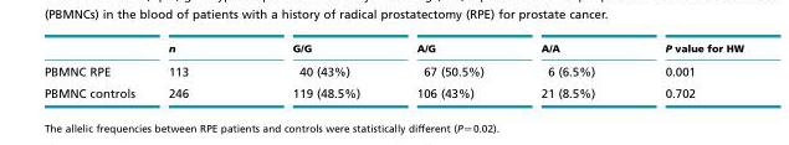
<table><thead><tr><td></td><td>n</td><td>G/G</td><td>A/G</td><td>A/A</td><td>P value for HW</td></tr></thead><tbody><tr><td>PBMNC RPE</td><td>113</td><td>40 (43%)</td><td>67 (50.5%)</td><td>6 (6.5%)</td><td>0.001</td></tr><tr><td>PBMNC controls</td><td>246</td><td>119 (48.5%)</td><td>106 (43%)</td><td>21 (8.5%)</td><td>0.702</td></tr></tbody></table>